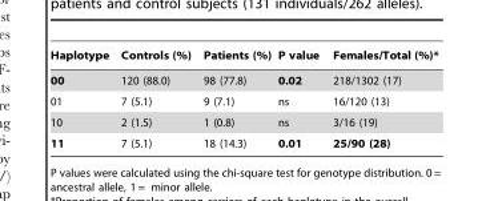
<table><thead><tr><td>Haplotype</td><td>Controls (%)</td><td>Patients (%)</td><td>P value</td><td>Females/Total (%)*</td></tr></thead><tbody><tr><td>00</td><td>120 (88.0)</td><td>98 (77.8)</td><td>0.02</td><td>218/1302 (17)</td></tr><tr><td>01</td><td>7 (5.1)</td><td>9 (7.1)</td><td>ns</td><td>16/120 (13)</td></tr><tr><td>10</td><td>2 (1.5)</td><td>1 (0.8)</td><td>ns</td><td>3/16 (19)</td></tr><tr><td>11</td><td>7 (5.1)</td><td>18 (14.3)</td><td>0.01</td><td>25/90 (28)</td></tr></tbody></table>